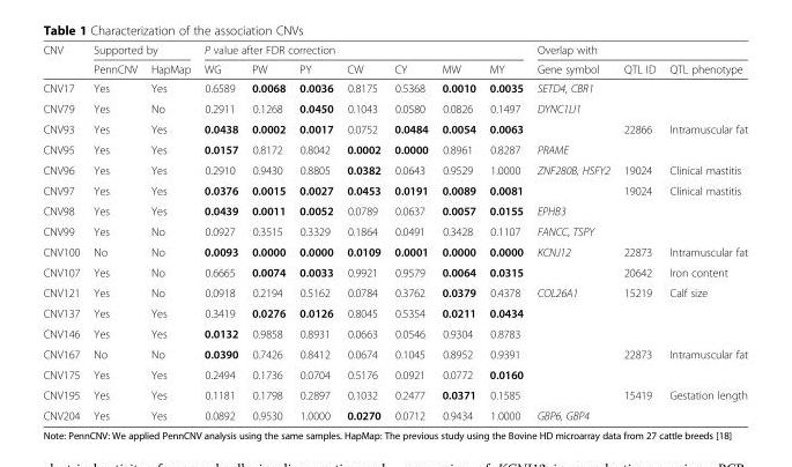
<table><thead><tr><td rowspan="2">CNV</td><td colspan="2">Supported by</td><td colspan="7">P value after FDR correction</td><td colspan="3">Overlap with</td></tr><tr><td>PennCNV</td><td>HapMap</td><td>WG</td><td>PW</td><td>PY</td><td>CW</td><td>CY</td><td>MW</td><td>MY</td><td>Gene symbol</td><td>QTL ID</td><td>QTL phenotype</td></tr></thead><tbody><tr><td>CNV17</td><td>Yes</td><td>Yes</td><td>0.6589</td><td>0.0068</td><td>0.0036</td><td>0.8175</td><td>0.5368</td><td>0.0010</td><td>0.0035</td><td>SETD4, CBR1</td><td></td><td></td></tr><tr><td>CNV79</td><td>Yes</td><td>No</td><td>0.2911</td><td>0.1268</td><td>0.0450</td><td>0.1043</td><td>0.0580</td><td>0.0826</td><td>0.1497</td><td>DYNC1LI1</td><td></td><td></td></tr><tr><td>CNV93</td><td>Yes</td><td>Yes</td><td>0.0438</td><td>0.0002</td><td>0.0017</td><td>0.0752</td><td>0.0484</td><td>0.0054</td><td>0.0063</td><td></td><td>22866</td><td>Intramuscular fat</td></tr><tr><td>CNV95</td><td>Yes</td><td>Yes</td><td>0.0157</td><td>0.8172</td><td>0.8042</td><td>0.0002</td><td>0.0000</td><td>0.8961</td><td>0.8287</td><td>PRAME</td><td></td><td></td></tr><tr><td>CNV96</td><td>Yes</td><td>Yes</td><td>0.2910</td><td>0.9430</td><td>0.8805</td><td>0.0382</td><td>0.0643</td><td>0.9529</td><td>1.0000</td><td>ZNF280B, HSFY2</td><td>19024</td><td>Clinical mastitis</td></tr><tr><td>CNV97</td><td>Yes</td><td>Yes</td><td>0.0376</td><td>0.0015</td><td>0.0027</td><td>0.0453</td><td>0.0191</td><td>0.0089</td><td>0.0081</td><td></td><td>19024</td><td>Clinical mastitis</td></tr><tr><td>CNV98</td><td>Yes</td><td>Yes</td><td>0.0439</td><td>0.0011</td><td>0.0052</td><td>0.0789</td><td>0.0637</td><td>0.0057</td><td>0.0155</td><td>EPHB3</td><td></td><td></td></tr><tr><td>CNV99</td><td>Yes</td><td>No</td><td>0.0927</td><td>0.3515</td><td>0.3329</td><td>0.1864</td><td>0.0491</td><td>0.3428</td><td>0.1107</td><td>FANCC, TSPY</td><td></td><td></td></tr><tr><td>CNV100</td><td>No</td><td>No</td><td>0.0093</td><td>0.0000</td><td>0.0000</td><td>0.0109</td><td>0.0001</td><td>0.0000</td><td>0.0000</td><td>KCNJ12</td><td>22873</td><td>Intramuscular fat</td></tr><tr><td>CNV107</td><td>Yes</td><td>No</td><td>0.6665</td><td>0.0074</td><td>0.0033</td><td>0.9921</td><td>0.9579</td><td>0.0064</td><td>0.0315</td><td></td><td>20642</td><td>Iron content</td></tr><tr><td>CNV121</td><td>Yes</td><td>No</td><td>0.0918</td><td>0.2194</td><td>0.5162</td><td>0.0784</td><td>0.3762</td><td>0.0379</td><td>0.4378</td><td>COL26A1</td><td>15219</td><td>Calf size</td></tr><tr><td>CNV137</td><td>Yes</td><td>Yes</td><td>0.3419</td><td>0.0276</td><td>0.0126</td><td>0.8045</td><td>0.5354</td><td>0.0211</td><td>0.0434</td><td></td><td></td><td></td></tr><tr><td>CNV146</td><td>Yes</td><td>Yes</td><td>0.0132</td><td>0.9858</td><td>0.8931</td><td>0.0663</td><td>0.0546</td><td>0.9304</td><td>0.8783</td><td></td><td></td><td></td></tr><tr><td>CNV167</td><td>No</td><td>No</td><td>0.0390</td><td>0.7426</td><td>0.8412</td><td>0.0674</td><td>0.1045</td><td>0.8952</td><td>0.9391</td><td></td><td>22873</td><td>Intramuscular fat</td></tr><tr><td>CNV175</td><td>Yes</td><td>Yes</td><td>0.2494</td><td>0.1736</td><td>0.0704</td><td>0.5176</td><td>0.0921</td><td>0.0772</td><td>0.0160</td><td></td><td></td><td></td></tr><tr><td>CNV195</td><td>Yes</td><td>Yes</td><td>0.1181</td><td>0.1798</td><td>0.2897</td><td>0.1032</td><td>0.2477</td><td>0.0371</td><td>0.1585</td><td></td><td>15419</td><td>Gestation length</td></tr><tr><td>CNV204</td><td>Yes</td><td>Yes</td><td>0.0892</td><td>0.9530</td><td>1.0000</td><td>0.0270</td><td>0.0712</td><td>0.9434</td><td>1.0000</td><td>GBP6, GBP4</td><td></td><td></td></tr></tbody></table>